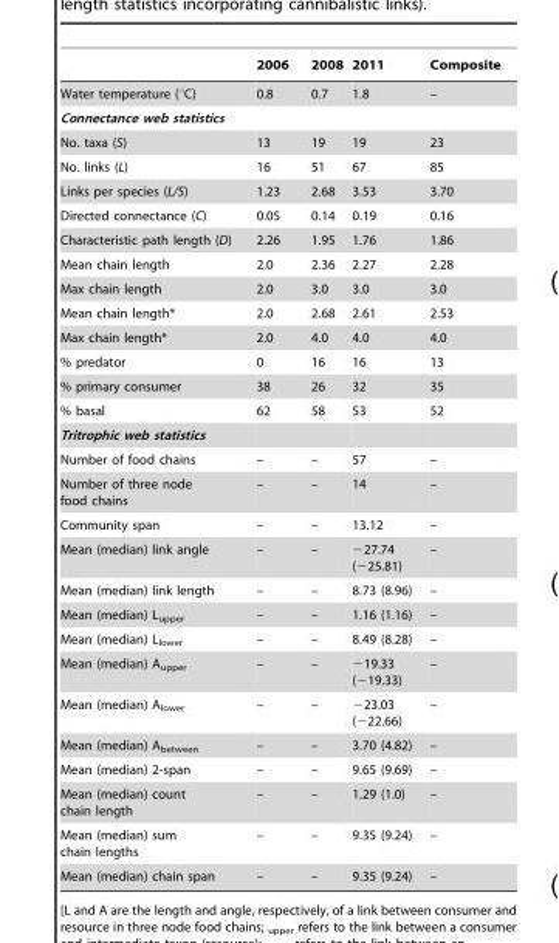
<table><thead><tr><td></td><td>2006</td><td>2008</td><td>2011</td><td>Composite</td></tr></thead><tbody><tr><td>Water temperature (°C)</td><td>0.8</td><td>0.7</td><td>1.8</td><td>–</td></tr><tr><td colspan="5">Connectance web statistics</td></tr><tr><td>No. taxa (S)</td><td>13</td><td>19</td><td>19</td><td>23</td></tr><tr><td>No. links (L)</td><td>16</td><td>51</td><td>67</td><td>85</td></tr><tr><td>Links per species (L/S)</td><td>1.23</td><td>2.68</td><td>3.53</td><td>3.70</td></tr><tr><td>Directed connectance (C)</td><td>0.05</td><td>0.14</td><td>0.19</td><td>0.16</td></tr><tr><td>Characteristic path length (D)</td><td>2.26</td><td>1.95</td><td>1.76</td><td>1.86</td></tr><tr><td>Mean chain length</td><td>2.0</td><td>2.36</td><td>2.27</td><td>2.28</td></tr><tr><td>Max chain length</td><td>2.0</td><td>3.0</td><td>3.0</td><td>3.0</td></tr><tr><td>Mean chain length*</td><td>2.0</td><td>2.68</td><td>2.61</td><td>2.53</td></tr><tr><td>Max chain length*</td><td>2.0</td><td>4.0</td><td>4.0</td><td>4.0</td></tr><tr><td>% predator</td><td>0</td><td>16</td><td>16</td><td>13</td></tr><tr><td>% primary consumer</td><td>38</td><td>26</td><td>32</td><td>35</td></tr><tr><td>% basal</td><td>62</td><td>58</td><td>53</td><td>52</td></tr><tr><td colspan="5">Tritrophic web statistics</td></tr><tr><td>Number of food chains</td><td>–</td><td>–</td><td>57</td><td>–</td></tr><tr><td>Number of three node food chains</td><td>–</td><td>–</td><td>14</td><td>–</td></tr><tr><td>Community span</td><td>–</td><td>–</td><td>13.12</td><td>–</td></tr><tr><td>Mean (median) link angle</td><td>–</td><td>–</td><td>−27.74 (−25.81)</td><td>–</td></tr><tr><td>Mean (median) link length</td><td>–</td><td>–</td><td>8.73 (8.96)</td><td>–</td></tr><tr><td>Mean (median) L<sub>upper</sub></td><td>–</td><td>–</td><td>1.16 (1.16)</td><td>–</td></tr><tr><td>Mean (median) L<sub>lower</sub></td><td>–</td><td>–</td><td>8.49 (8.28)</td><td>–</td></tr><tr><td>Mean (median) A<sub>upper</sub></td><td>–</td><td>–</td><td>−19.33 (−19.33)</td><td>–</td></tr><tr><td>Mean (median) A<sub>lower</sub></td><td>–</td><td>–</td><td>−23.03 (−22.66)</td><td>–</td></tr><tr><td>Mean (median) A<sub>between</sub></td><td>–</td><td>–</td><td>3.70 (4.82)</td><td>–</td></tr><tr><td>Mean (median) 2-span</td><td>–</td><td>–</td><td>9.65 (9.69)</td><td>–</td></tr><tr><td>Mean (median) count chain length</td><td>–</td><td>–</td><td>1.29 (1.0)</td><td>–</td></tr><tr><td>Mean (median) sum chain lengths</td><td>–</td><td>–</td><td>9.35 (9.24)</td><td>–</td></tr><tr><td>Mean (median) chain span</td><td>–</td><td>–</td><td>9.35 (9.24)</td><td>–</td></tr></tbody></table>